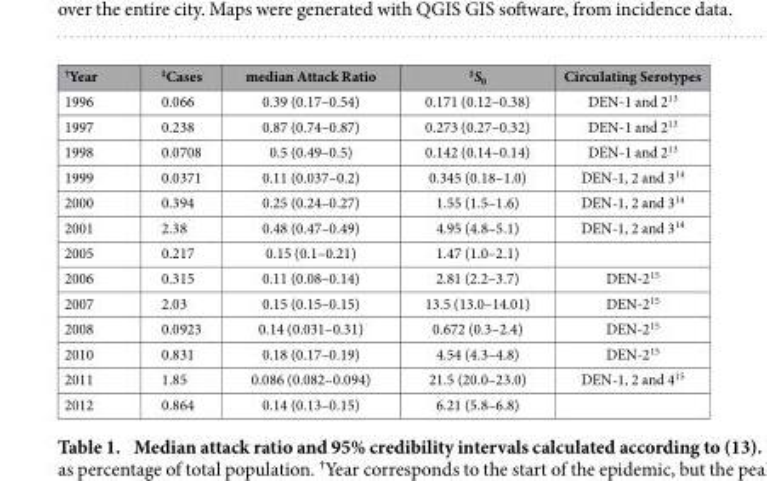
<table><thead><tr><td><sup>†</sup>Year</td><td><sup>‡</sup>Cases</td><td>median Attack Ratio</td><td><sup>‡</sup>S<sub>0</sub></td><td>Circulating Serotypes</td></tr></thead><tbody><tr><td>1996</td><td>0.066</td><td>0.39 (0.17–0.54)</td><td>0.171 (0.12–0.38)</td><td>DEN-1 and 2<sup>13</sup></td></tr><tr><td>1997</td><td>0.238</td><td>0.87 (0.74–0.87)</td><td>0.273 (0.27–0.32)</td><td>DEN-1 and 2<sup>13</sup></td></tr><tr><td>1998</td><td>0.0708</td><td>0.5 (0.49–0.5)</td><td>0.142 (0.14–0.14)</td><td>DEN-1 and 2<sup>13</sup></td></tr><tr><td>1999</td><td>0.0371</td><td>0.11 (0.037–0.2)</td><td>0.345 (0.18–1.0)</td><td>DEN-1, 2 and 3<sup>14</sup></td></tr><tr><td>2000</td><td>0.394</td><td>0.25 (0.24–0.27)</td><td>1.55 (1.5–1.6)</td><td>DEN-1, 2 and 3<sup>14</sup></td></tr><tr><td>2001</td><td>2.38</td><td>0.48 (0.47–0.49)</td><td>4.95 (4.8–5.1)</td><td>DEN-1, 2 and 3<sup>14</sup></td></tr><tr><td>2005</td><td>0.217</td><td>0.15 (0.1–0.21)</td><td>1.47 (1.0–2.1)</td><td></td></tr><tr><td>2006</td><td>0.315</td><td>0.11 (0.08–0.14)</td><td>2.81 (2.2–3.7)</td><td>DEN-2<sup>15</sup></td></tr><tr><td>2007</td><td>2.03</td><td>0.15 (0.15–0.15)</td><td>13.5 (13.0–14.01)</td><td>DEN-2<sup>15</sup></td></tr><tr><td>2008</td><td>0.0923</td><td>0.14 (0.031–0.31)</td><td>0.672 (0.3–2.4)</td><td>DEN-2<sup>15</sup></td></tr><tr><td>2010</td><td>0.831</td><td>0.18 (0.17–0.19)</td><td>4.54 (4.3–4.8)</td><td>DEN-2<sup>15</sup></td></tr><tr><td>2011</td><td>1.85</td><td>0.086 (0.082–0.094)</td><td>21.5 (20.0–23.0)</td><td>DEN-1, 2 and 4<sup>15</sup></td></tr><tr><td>2012</td><td>0.864</td><td>0.14 (0.13–0.15)</td><td>6.21 (5.8–6.8)</td><td></td></tr></tbody></table>